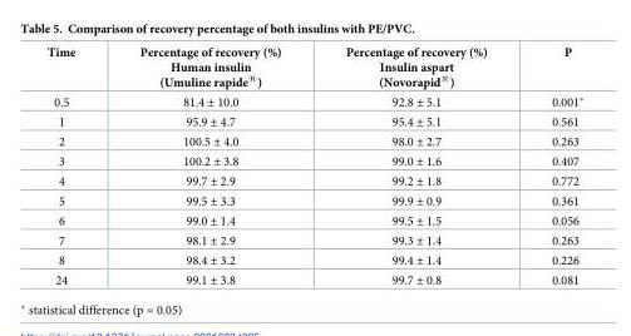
<table><thead><tr><td>Time</td><td>Percentage of recovery (%) Human insulin (Umuline rapide<sup>®</sup>)</td><td>Percentage of recovery (%) Insulin aspart (Novorapid<sup>®</sup>)</td><td>P</td></tr></thead><tbody><tr><td>0.5</td><td>81.4 ± 10.0</td><td>92.8 ± 5.1</td><td>0.001*</td></tr><tr><td>1</td><td>95.9 ± 4.7</td><td>95.4 ± 5.1</td><td>0.561</td></tr><tr><td>2</td><td>100.5 ± 4.0</td><td>98.0 ± 2.7</td><td>0.263</td></tr><tr><td>3</td><td>100.2 ± 3.8</td><td>99.0 ± 1.6</td><td>0.407</td></tr><tr><td>4</td><td>99.7 ± 2.9</td><td>99.2 ± 1.8</td><td>0.772</td></tr><tr><td>5</td><td>99.5 ± 3.3</td><td>99.9 ± 0.9</td><td>0.361</td></tr><tr><td>6</td><td>99.0 ± 1.4</td><td>99.5 ± 1.5</td><td>0.056</td></tr><tr><td>7</td><td>98.1 ± 2.9</td><td>99.3 ± 1.4</td><td>0.263</td></tr><tr><td>8</td><td>98.4 ± 3.2</td><td>99.4 ± 1.4</td><td>0.226</td></tr><tr><td>24</td><td>99.1 ± 3.8</td><td>99.7 ± 0.8</td><td>0.081</td></tr></tbody></table>